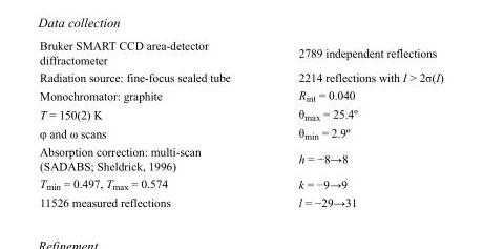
<table><tbody><tr><td>Bruker SMART CCD area-detector diffractometer</td><td>2789 independent reflections</td></tr><tr><td>Radiation source: fine-focus sealed tube</td><td>2214 reflections with I &gt; 2σ(I)</td></tr><tr><td>Monochromator: graphite</td><td>R<sub>int</sub> = 0.040</td></tr><tr><td>T = 150(2) K</td><td>θ<sub>max</sub> = 25.4º</td></tr><tr><td>φ and ω scans</td><td>θ<sub>min</sub> = 2.9º</td></tr><tr><td>Absorption correction: multi-scan (SADABS; Sheldrick, 1996)</td><td>h = −8→8</td></tr><tr><td>T<sub>min</sub> = 0.497, T<sub>max</sub> = 0.574</td><td>k = −9→9</td></tr><tr><td>11526 measured reflections</td><td>l = −29→31</td></tr></tbody></table>